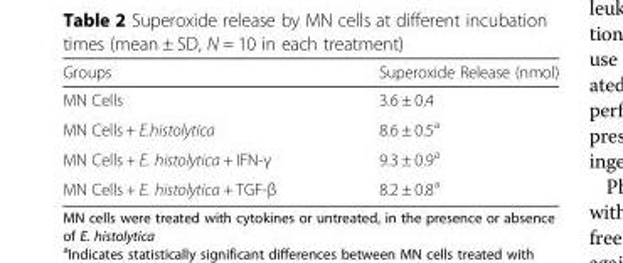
<table><thead><tr><td>Groups</td><td>Superoxide Release (nmol)</td></tr></thead><tbody><tr><td>MN Cells</td><td>3.6 ± 0.4</td></tr><tr><td>MN Cells + E.histolytica</td><td>8.6 ± 0.5<sup>a</sup></td></tr><tr><td>MN Cells + E. histolytica + IFN-γ</td><td>9.3 ± 0.9<sup>a</sup></td></tr><tr><td>MN Cells + E. histolytica + TGF-β</td><td>8.2 ± 0.8<sup>a</sup></td></tr></tbody></table>